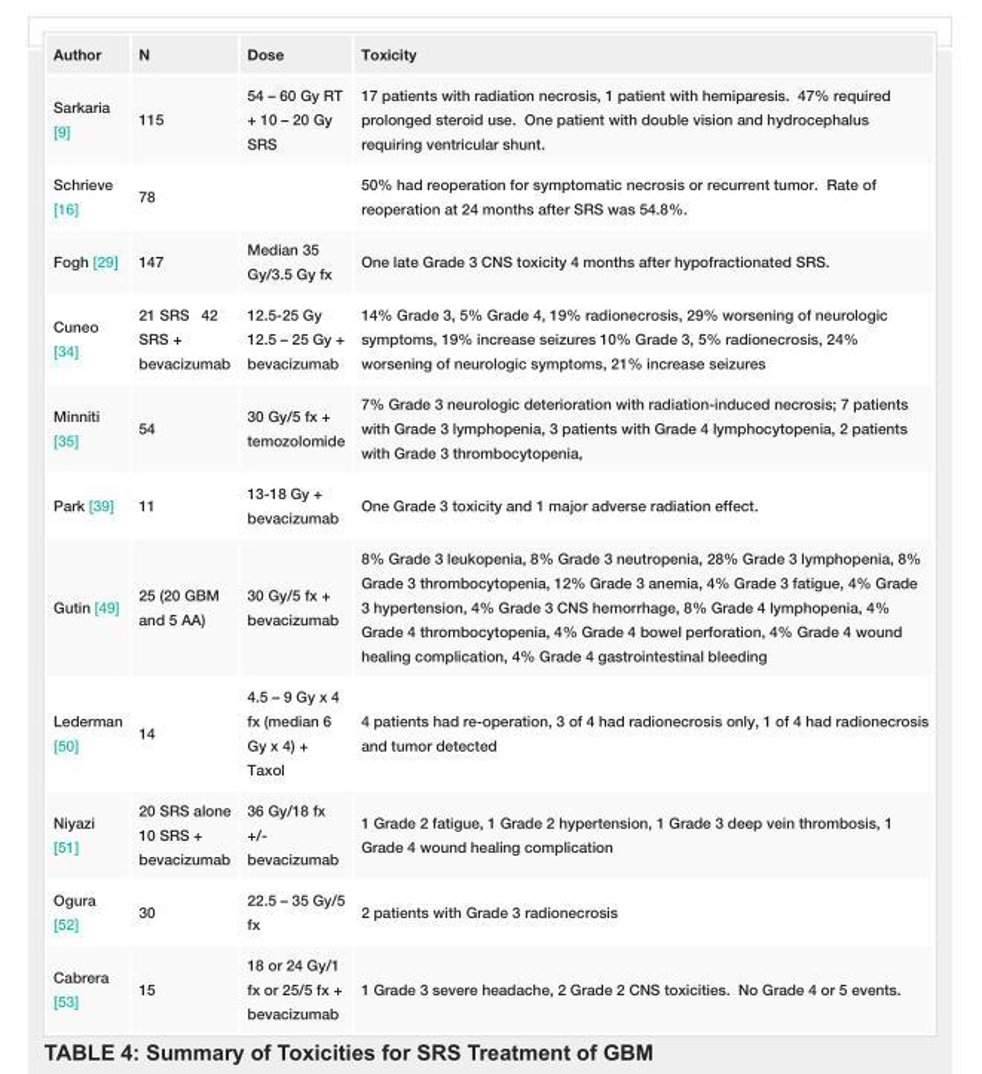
<table><tbody><tr><td>Author</td><td>N</td><td>Dose</td><td>Toxicity</td></tr><tr><td>Sarkaria [9]</td><td>115</td><td>54 – 60 Gy RT + 10 – 20 Gy SRS</td><td>17 patients with radiation necrosis, 1 patient with hemiparesis. 47% required prolonged steroid use. One patient with double vision and hydrocephalus requiring ventricular shunt.</td></tr><tr><td>Schrieve [16]</td><td>78</td><td></td><td>50% had reoperation for symptomatic necrosis or recurrent tumor. Rate of reoperation at 24 months after SRS was 54.8%.</td></tr><tr><td>Fogh [29]</td><td>147</td><td>Median 35 Gy/3.5 Gy fx</td><td>One late Grade 3 CNS toxicity 4 months after hypofractionated SRS.</td></tr><tr><td>Cuneo [34]</td><td>21 SRS 42 SRS + bevacizumab</td><td>12.5-25 Gy 12.5 – 25 Gy + bevacizumab</td><td>14% Grade 3, 5% Grade 4, 19% radionecrosis, 29% worsening of neurologic symptoms, 19% increase seizures 10% Grade 3, 5% radionecrosis, 24% worsening of neurologic symptoms, 21% increase seizures</td></tr><tr><td>Minniti [35]</td><td>54</td><td>30 Gy/5 fx + temozolomide</td><td>7% Grade 3 neurologic deterioration with radiation-induced necrosis; 7 patients with Grade 3 lymphopenia, 3 patients with Grade 4 lymphocytopenia, 2 patients with Grade 3 thrombocytopenia,</td></tr><tr><td>Park [39]</td><td>11</td><td>13-18 Gy + bevacizumab</td><td>One Grade 3 toxicity and 1 major adverse radiation effect.</td></tr><tr><td>Gutin [49]</td><td>25 (20 GBM and 5 AA)</td><td>30 Gy/5 fx + bevacizumab</td><td>8% Grade 3 leukopenia, 8% Grade 3 neutropenia, 28% Grade 3 lymphopenia, 8% Grade 3 thrombocytopenia, 12% Grade 3 anemia, 4% Grade 3 fatigue, 4% Grade 3 hypertension, 4% Grade 3 CNS hemorrhage, 8% Grade 4 lymphopenia, 4% Grade 4 thrombocytopenia, 4% Grade 4 bowel perforation, 4% Grade 4 wound healing complication, 4% Grade 4 gastrointestinal bleeding</td></tr><tr><td>Lederman [50]</td><td>14</td><td>4.5 – 9 Gy x 4 fx (median 6 Gy x 4) + Taxol</td><td>4 patients had re-operation, 3 of 4 had radionecrosis only, 1 of 4 had radionecrosis and tumor detected</td></tr><tr><td>Niyazi [51]</td><td>20 SRS alone 10 SRS + bevacizumab</td><td>36 Gy/18 fx +/- bevacizumab</td><td>1 Grade 2 fatigue, 1 Grade 2 hypertension, 1 Grade 3 deep vein thrombosis, 1 Grade 4 wound healing complication</td></tr><tr><td>Ogura [52]</td><td>30</td><td>22.5 – 35 Gy/5 fx</td><td>2 patients with Grade 3 radionecrosis</td></tr><tr><td>Cabrera [53]</td><td>15</td><td>18 or 24 Gy/1 fx or 25/5 fx + bevacizumab</td><td>1 Grade 3 severe headache, 2 Grade 2 CNS toxicities. No Grade 4 or 5 events.</td></tr></tbody></table>